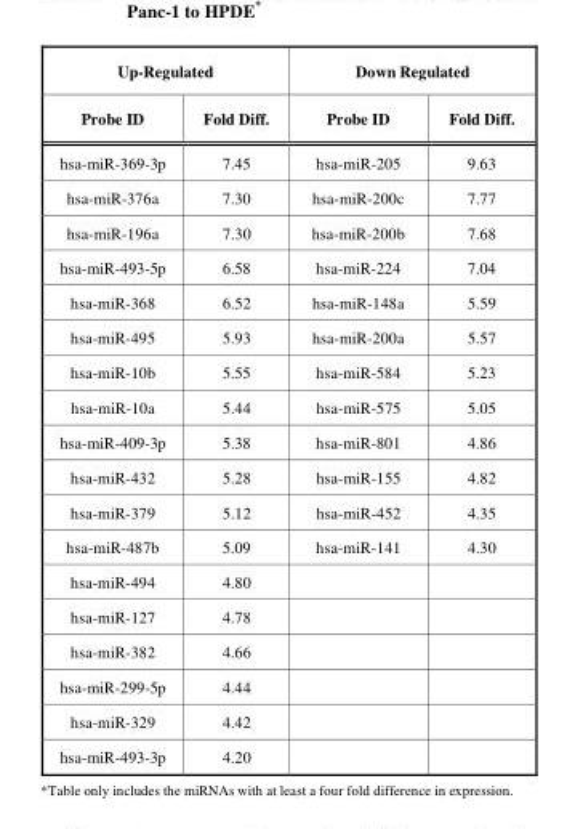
<table><thead><tr><td colspan="2">Up-Regulated</td><td colspan="2">Down Regulated</td></tr><tr><td>Probe ID</td><td>Fold Diff.</td><td>Probe ID</td><td>Fold Diff.</td></tr></thead><tbody><tr><td>hsa-miR-369-3p</td><td>7.45</td><td>hsa-miR-205</td><td>9.63</td></tr><tr><td>hsa-miR-376a</td><td>7.30</td><td>hsa-miR-200c</td><td>7.77</td></tr><tr><td>hsa-miR-196a</td><td>7.30</td><td>hsa-miR-200b</td><td>7.68</td></tr><tr><td>hsa-miR-493-5p</td><td>6.58</td><td>hsa-miR-224</td><td>7.04</td></tr><tr><td>hsa-miR-368</td><td>6.52</td><td>hsa-miR-148a</td><td>5.59</td></tr><tr><td>hsa-miR-495</td><td>5.93</td><td>hsa-miR-200a</td><td>5.57</td></tr><tr><td>hsa-miR-10b</td><td>5.55</td><td>hsa-miR-584</td><td>5.23</td></tr><tr><td>hsa-miR-10a</td><td>5.44</td><td>hsa-miR-575</td><td>5.05</td></tr><tr><td>hsa-miR-409-3p</td><td>5.38</td><td>hsa-miR-801</td><td>4.86</td></tr><tr><td>hsa-miR-432</td><td>5.28</td><td>hsa-miR-155</td><td>4.82</td></tr><tr><td>hsa-miR-379</td><td>5.12</td><td>hsa-miR-452</td><td>4.35</td></tr><tr><td>hsa-miR-487b</td><td>5.09</td><td>hsa-miR-141</td><td>4.30</td></tr><tr><td>hsa-miR-494</td><td>4.80</td><td></td><td></td></tr><tr><td>hsa-miR-127</td><td>4.78</td><td></td><td></td></tr><tr><td>hsa-miR-382</td><td>4.66</td><td></td><td></td></tr><tr><td>hsa-miR-299-5p</td><td>4.44</td><td></td><td></td></tr><tr><td>hsa-miR-329</td><td>4.42</td><td></td><td></td></tr><tr><td>hsa-miR-493-3p</td><td>4.20</td><td></td><td></td></tr></tbody></table>